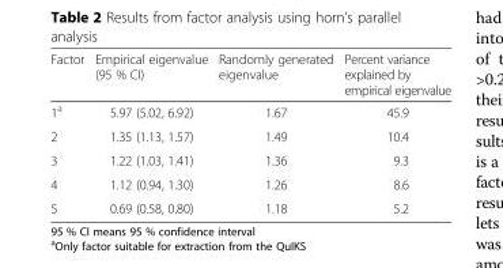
<table><thead><tr><td>Factor</td><td>Empirical eigenvalue (95 % CI)</td><td>Randomly generated eigenvalue</td><td>Percent variance explained by empirical eigenvalue</td></tr></thead><tbody><tr><td>1<sup>a</sup></td><td>5.97 (5.02, 6.92)</td><td>1.67</td><td>45.9</td></tr><tr><td>2</td><td>1.35 (1.13, 1.57)</td><td>1.49</td><td>10.4</td></tr><tr><td>3</td><td>1.22 (1.03, 1.41)</td><td>1.36</td><td>9.3</td></tr><tr><td>4</td><td>1.12 (0.94, 1.30)</td><td>1.26</td><td>8.6</td></tr><tr><td>5</td><td>0.69 (0.58, 0.80)</td><td>1.18</td><td>5.2</td></tr></tbody></table>